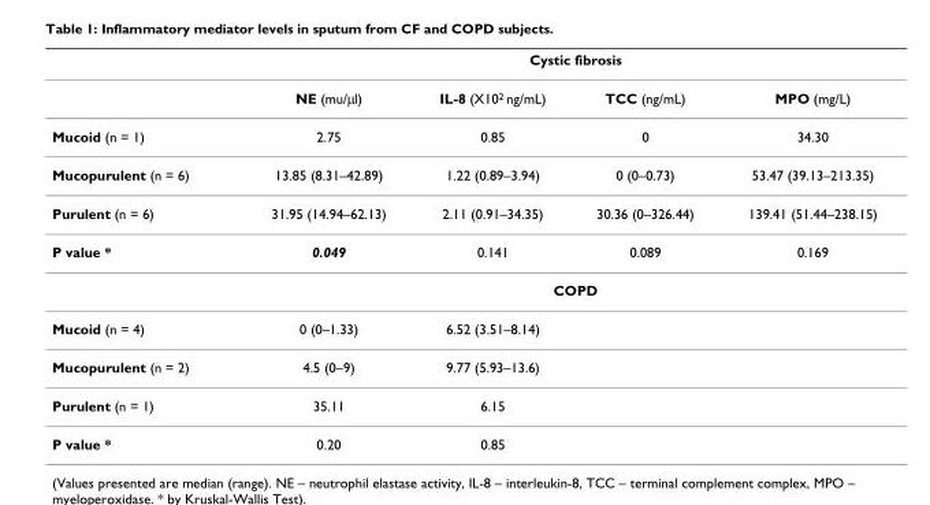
<table><thead><tr><td rowspan="2"></td><td colspan="4">Cystic fibrosis</td></tr><tr><td>NE (mu/μl)</td><td>IL-8 (X10<sup>2</sup> ng/mL)</td><td>TCC (ng/mL)</td><td>MPO (mg/L)</td></tr></thead><tbody><tr><td>Mucoid (n = 1)</td><td>2.75</td><td>0.85</td><td>0</td><td>34.30</td></tr><tr><td>Mucopurulent (n = 6)</td><td>13.85 (8.31–42.89)</td><td>1.22 (0.89–3.94)</td><td>0 (0–0.73)</td><td>53.47 (39.13–213.35)</td></tr><tr><td>Purulent (n = 6)</td><td>31.95 (14.94–62.13)</td><td>2.11 (0.91–34.35)</td><td>30.36 (0–326.44)</td><td>139.41 (51.44–238.15)</td></tr><tr><td rowspan="2">P value *</td><td>0.049</td><td>0.141</td><td>0.089</td><td>0.169</td></tr><tr><td colspan="4">COPD</td></tr><tr><td>Mucoid (n = 4)</td><td>0 (0–1.33)</td><td>6.52 (3.51–8.14)</td><td></td><td></td></tr><tr><td>Mucopurulent (n = 2)</td><td>4.5 (0–9)</td><td>9.77 (5.93–13.6)</td><td></td><td></td></tr><tr><td>Purulent (n = 1)</td><td>35.11</td><td>6.15</td><td></td><td></td></tr><tr><td>P value *</td><td>0.20</td><td>0.85</td><td></td><td></td></tr></tbody></table>